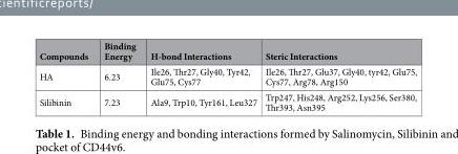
<table><thead><tr><td>Compounds</td><td>Binding Energy</td><td>H-bond Interactions</td><td>Steric Interactions</td></tr></thead><tbody><tr><td>HA</td><td>6.23</td><td>Ile26, Thr27, Gly40, Tyr42, Glu75, Cys77</td><td>Ile26, Thr27, Glu37, Gly40, tyr42, Glu75, Cys77, Arg78, Arg150</td></tr><tr><td>Silibinin</td><td>7.23</td><td>Ala9, Trp10, Tyr161, Leu327</td><td>Trp247, His248, Arg252, Lys256, Ser380, Thr393, Asn395</td></tr></tbody></table>